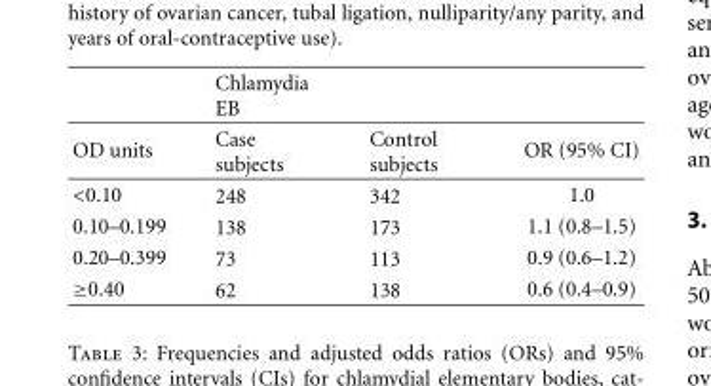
<table><thead><tr><td rowspan="2">OD units</td><td rowspan="2">Chlamydia EB Case subjects</td><td rowspan="2">Control subjects</td><td rowspan="2">OR (95% CI)</td></tr><tr></tr></thead><tbody><tr><td>&lt;0.10</td><td>248</td><td>342</td><td>1.0</td></tr><tr><td>0.10–0.199</td><td>138</td><td>173</td><td>1.1 (0.8–1.5)</td></tr><tr><td>0.20–0.399</td><td>73</td><td>113</td><td>0.9 (0.6–1.2)</td></tr><tr><td>≥0.40</td><td>62</td><td>138</td><td>0.6 (0.4–0.9)</td></tr></tbody></table>